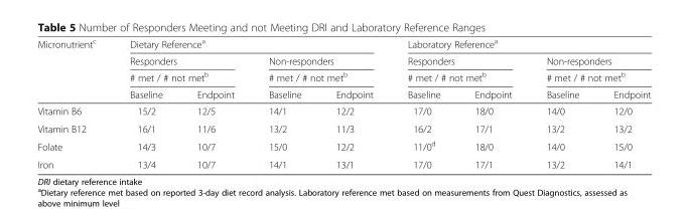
<table><thead><tr><td rowspan="4">Micronutrient<sup>c</sup></td><td colspan="4">Dietary Reference<sup>a</sup></td><td colspan="4">Laboratory Reference<sup>a</sup></td></tr><tr><td rowspan="2" colspan="2">Responders # met / # not met<sup>b</sup></td><td rowspan="2" colspan="2">Non-responders # met / # not met<sup>b</sup></td><td rowspan="2" colspan="2">Responders # met / # not met<sup>b</sup></td><td rowspan="2" colspan="2">Non-responders # met / # not met<sup>b</sup></td></tr><tr></tr><tr><td>Baseline</td><td>Endpoint</td><td>Baseline</td><td>Endpoint</td><td>Baseline</td><td>Endpoint</td><td>Baseline</td><td>Endpoint</td></tr></thead><tbody><tr><td>Vitamin B6</td><td>15/2</td><td>12/5</td><td>14/1</td><td>12/2</td><td>17/0</td><td>18/0</td><td>14/0</td><td>12/0</td></tr><tr><td>Vitamin B12</td><td>16/1</td><td>11/6</td><td>13/2</td><td>11/3</td><td>16/2</td><td>17/1</td><td>13/2</td><td>13/2</td></tr><tr><td>Folate</td><td>14/3</td><td>10/7</td><td>15/0</td><td>12/2</td><td>11/0<sup>d</sup></td><td>18/0</td><td>14/0</td><td>15/0</td></tr><tr><td>Iron</td><td>13/4</td><td>10/7</td><td>14/1</td><td>13/1</td><td>17/0</td><td>17/1</td><td>13/2</td><td>14/1</td></tr></tbody></table>